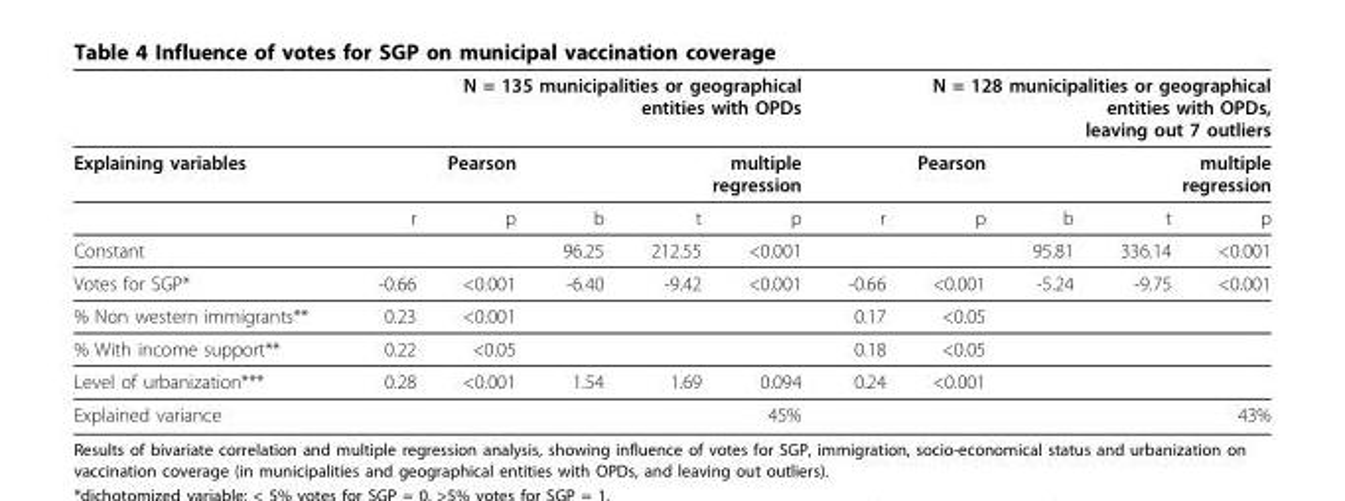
<table><thead><tr><td rowspan="3">Explaining variables</td><td colspan="5">N = 135 municipalities or geographical entities with OPDs</td><td colspan="5">N = 128 municipalities or geographical entities with OPDs, leaving out 7 outliers</td></tr><tr><td colspan="2">Pearson</td><td colspan="3">multiple regression</td><td colspan="2">Pearson</td><td colspan="3">multiple regression</td></tr><tr><td>r</td><td>p</td><td>b</td><td>t</td><td>p</td><td>r</td><td>p</td><td>b</td><td>t</td><td>p</td></tr></thead><tbody><tr><td>Constant</td><td></td><td></td><td>96.25</td><td>212.55</td><td>&lt;0.001</td><td></td><td></td><td>95.81</td><td>336.14</td><td>&lt;0.001</td></tr><tr><td>Votes for SGP*</td><td>-0.66</td><td>&lt;0.001</td><td>-6.40</td><td>-9.42</td><td>&lt;0.001</td><td>-0.66</td><td>&lt;0.001</td><td>-5.24</td><td>-9.75</td><td>&lt;0.001</td></tr><tr><td>% Non western immigrants**</td><td>0.23</td><td>&lt;0.001</td><td></td><td></td><td></td><td>0.17</td><td>&lt;0.05</td><td></td><td></td><td></td></tr><tr><td>% With income support**</td><td>0.22</td><td>&lt;0.05</td><td></td><td></td><td></td><td>0.18</td><td>&lt;0.05</td><td></td><td></td><td></td></tr><tr><td>Level of urbanization***</td><td>0.28</td><td>&lt;0.001</td><td>1.54</td><td>1.69</td><td>0.094</td><td>0.24</td><td>&lt;0.001</td><td></td><td></td><td></td></tr><tr><td>Explained variance</td><td></td><td></td><td colspan="3">45%</td><td></td><td></td><td colspan="3">43%</td></tr></tbody></table>